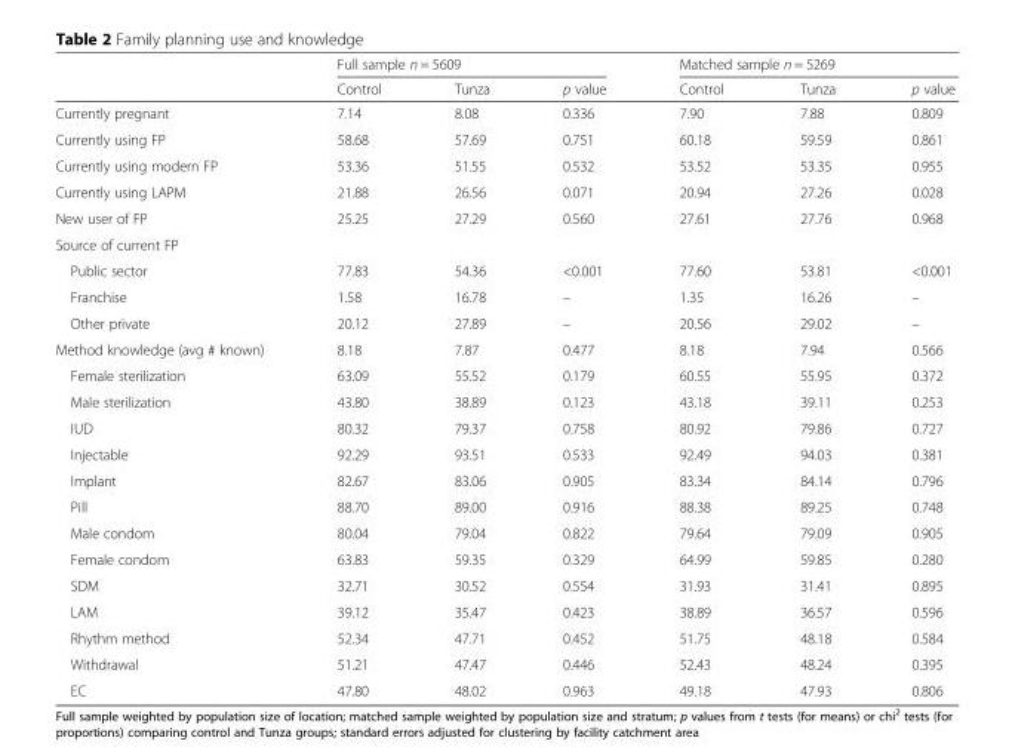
<table><thead><tr><td rowspan="2"></td><td colspan="3">Full sample n = 5609</td><td colspan="3">Matched sample n = 5269</td></tr><tr><td>Control</td><td>Tunza</td><td>p value</td><td>Control</td><td>Tunza</td><td>p value</td></tr></thead><tbody><tr><td>Currently pregnant</td><td>7.14</td><td>8.08</td><td>0.336</td><td>7.90</td><td>7.88</td><td>0.809</td></tr><tr><td>Currently using FP</td><td>58.68</td><td>57.69</td><td>0.751</td><td>60.18</td><td>59.59</td><td>0.861</td></tr><tr><td>Currently using modern FP</td><td>53.36</td><td>51.55</td><td>0.532</td><td>53.52</td><td>53.35</td><td>0.955</td></tr><tr><td>Currently using LAPM</td><td>21.88</td><td>26.56</td><td>0.071</td><td>20.94</td><td>27.26</td><td>0.028</td></tr><tr><td>New user of FP</td><td>25.25</td><td>27.29</td><td>0.560</td><td>27.61</td><td>27.76</td><td>0.968</td></tr><tr><td colspan="7">Source of current FP</td></tr><tr><td>Public sector</td><td>77.83</td><td>54.36</td><td>&lt;0.001</td><td>77.60</td><td>53.81</td><td>&lt;0.001</td></tr><tr><td>Franchise</td><td>1.58</td><td>16.78</td><td>–</td><td>1.35</td><td>16.26</td><td>–</td></tr><tr><td>Other private</td><td>20.12</td><td>27.89</td><td>–</td><td>20.56</td><td>29.02</td><td>–</td></tr><tr><td>Method knowledge (avg # known)</td><td>8.18</td><td>7.87</td><td>0.477</td><td>8.18</td><td>7.94</td><td>0.566</td></tr><tr><td>Female sterilization</td><td>63.09</td><td>55.52</td><td>0.179</td><td>60.55</td><td>55.95</td><td>0.372</td></tr><tr><td>Male sterilization</td><td>43.80</td><td>38.89</td><td>0.123</td><td>43.18</td><td>39.11</td><td>0.253</td></tr><tr><td>IUD</td><td>80.32</td><td>79.37</td><td>0.758</td><td>80.92</td><td>79.86</td><td>0.727</td></tr><tr><td>Injectable</td><td>92.29</td><td>93.51</td><td>0.533</td><td>92.49</td><td>94.03</td><td>0.381</td></tr><tr><td>Implant</td><td>82.67</td><td>83.06</td><td>0.905</td><td>83.34</td><td>84.14</td><td>0.796</td></tr><tr><td>Pill</td><td>88.70</td><td>89.00</td><td>0.916</td><td>88.38</td><td>89.25</td><td>0.748</td></tr><tr><td>Male condom</td><td>80.04</td><td>79.04</td><td>0.822</td><td>79.64</td><td>79.09</td><td>0.905</td></tr><tr><td>Female condom</td><td>63.83</td><td>59.35</td><td>0.329</td><td>64.99</td><td>59.85</td><td>0.280</td></tr><tr><td>SDM</td><td>32.71</td><td>30.52</td><td>0.554</td><td>31.93</td><td>31.41</td><td>0.895</td></tr><tr><td>LAM</td><td>39.12</td><td>35.47</td><td>0.423</td><td>38.89</td><td>36.57</td><td>0.596</td></tr><tr><td>Rhythm method</td><td>52.34</td><td>47.71</td><td>0.452</td><td>51.75</td><td>48.18</td><td>0.584</td></tr><tr><td>Withdrawal</td><td>51.21</td><td>47.47</td><td>0.446</td><td>52.43</td><td>48.24</td><td>0.395</td></tr><tr><td>EC</td><td>47.80</td><td>48.02</td><td>0.963</td><td>49.18</td><td>47.93</td><td>0.806</td></tr></tbody></table>